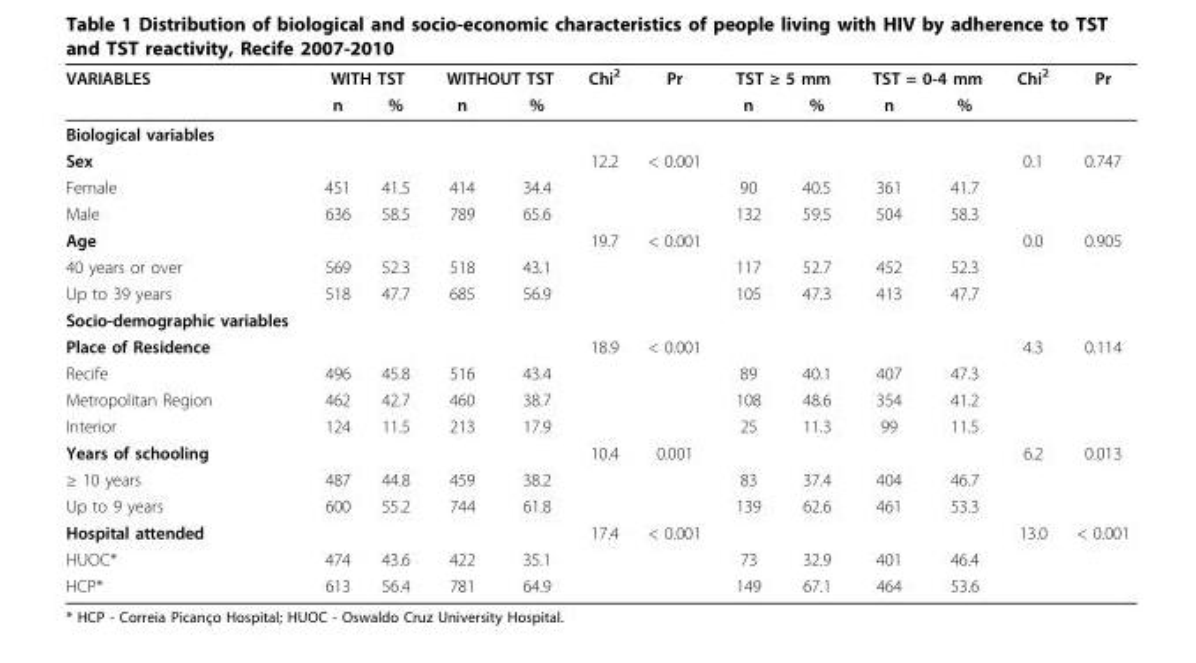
<table><thead><tr><td rowspan="2">VARIABLES</td><td colspan="2">WITH TST</td><td colspan="2">WITHOUT TST</td><td rowspan="2">Chi<sup>2</sup></td><td rowspan="2">Pr</td><td colspan="2">TST ≥ 5 mm</td><td colspan="2">TST = 0-4 mm</td><td rowspan="2">Chi<sup>2</sup></td><td rowspan="2">Pr</td></tr><tr><td>n</td><td>%</td><td>n</td><td>%</td><td>n</td><td>%</td><td>n</td><td>%</td></tr></thead><tbody><tr><td colspan="13">Biological variables</td></tr><tr><td>Sex</td><td></td><td></td><td></td><td></td><td>12.2</td><td>&lt; 0.001</td><td></td><td></td><td></td><td></td><td>0.1</td><td>0.747</td></tr><tr><td>Female</td><td>451</td><td>41.5</td><td>414</td><td>34.4</td><td></td><td></td><td>90</td><td>40.5</td><td>361</td><td>41.7</td><td></td><td></td></tr><tr><td>Male</td><td>636</td><td>58.5</td><td>789</td><td>65.6</td><td></td><td></td><td>132</td><td>59.5</td><td>504</td><td>58.3</td><td></td><td></td></tr><tr><td>Age</td><td></td><td></td><td></td><td></td><td>19.7</td><td>&lt; 0.001</td><td></td><td></td><td></td><td></td><td>0.0</td><td>0.905</td></tr><tr><td>40 years or over</td><td>569</td><td>52.3</td><td>518</td><td>43.1</td><td></td><td></td><td>117</td><td>52.7</td><td>452</td><td>52.3</td><td></td><td></td></tr><tr><td>Up to 39 years</td><td>518</td><td>47.7</td><td>685</td><td>56.9</td><td></td><td></td><td>105</td><td>47.3</td><td>413</td><td>47.7</td><td></td><td></td></tr><tr><td colspan="13">Socio-demographic variables</td></tr><tr><td>Place of Residence</td><td></td><td></td><td></td><td></td><td>18.9</td><td>&lt; 0.001</td><td></td><td></td><td></td><td></td><td>4.3</td><td>0.114</td></tr><tr><td>Recife</td><td>496</td><td>45.8</td><td>516</td><td>43.4</td><td></td><td></td><td>89</td><td>40.1</td><td>407</td><td>47.3</td><td></td><td></td></tr><tr><td>Metropolitan Region</td><td>462</td><td>42.7</td><td>460</td><td>38.7</td><td></td><td></td><td>108</td><td>48.6</td><td>354</td><td>41.2</td><td></td><td></td></tr><tr><td>Interior</td><td>124</td><td>11.5</td><td>213</td><td>17.9</td><td></td><td></td><td>25</td><td>11.3</td><td>99</td><td>11.5</td><td></td><td></td></tr><tr><td>Years of schooling</td><td></td><td></td><td></td><td></td><td>10.4</td><td>0.001</td><td></td><td></td><td></td><td></td><td>6.2</td><td>0.013</td></tr><tr><td>≥ 10 years</td><td>487</td><td>44.8</td><td>459</td><td>38.2</td><td></td><td></td><td>83</td><td>37.4</td><td>404</td><td>46.7</td><td></td><td></td></tr><tr><td>Up to 9 years</td><td>600</td><td>55.2</td><td>744</td><td>61.8</td><td></td><td></td><td>139</td><td>62.6</td><td>461</td><td>53.3</td><td></td><td></td></tr><tr><td>Hospital attended</td><td></td><td></td><td></td><td></td><td>17.4</td><td>&lt; 0.001</td><td></td><td></td><td></td><td></td><td>13.0</td><td>&lt; 0.001</td></tr><tr><td>HUOC*</td><td>474</td><td>43.6</td><td>422</td><td>35.1</td><td></td><td></td><td>73</td><td>32.9</td><td>401</td><td>46.4</td><td></td><td></td></tr><tr><td>HCP*</td><td>613</td><td>56.4</td><td>781</td><td>64.9</td><td></td><td></td><td>149</td><td>67.1</td><td>464</td><td>53.6</td><td></td><td></td></tr></tbody></table>